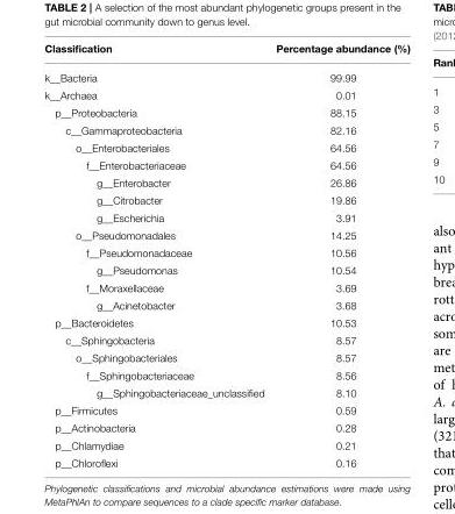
<table><thead><tr><td>Classification</td><td>Percentage abundance (%)</td></tr></thead><tbody><tr><td>k__Bacteria</td><td>99.99</td></tr><tr><td>k__Archaea</td><td>0.01</td></tr><tr><td>p__Proteobacteria</td><td>88.15</td></tr><tr><td>c__Gammaproteobacteria</td><td>82.16</td></tr><tr><td>o__Enterobacteriales</td><td>64.56</td></tr><tr><td>f__Enterobacteriaceae</td><td>64.56</td></tr><tr><td>g__Enterobacter</td><td>26.86</td></tr><tr><td>g__Citrobacter</td><td>19.86</td></tr><tr><td>g__Escherichia</td><td>3.91</td></tr><tr><td>o__Pseudomonadales</td><td>14.25</td></tr><tr><td>f__Pseudomonadaceae</td><td>10.56</td></tr><tr><td>g__Pseudomonas</td><td>10.54</td></tr><tr><td>f__Moraxellaceae</td><td>3.69</td></tr><tr><td>g__Acinetobacter</td><td>3.68</td></tr><tr><td>p__Bacteroidetes</td><td>10.53</td></tr><tr><td>c__Sphingobacteria</td><td>8.57</td></tr><tr><td>o__Sphingobacteriales</td><td>8.57</td></tr><tr><td>f__Sphingobacteriaceae</td><td>8.56</td></tr><tr><td>g__Sphingobacteriaceae_unclassified</td><td>8.10</td></tr><tr><td>p__Firmicutes</td><td>0.59</td></tr><tr><td>p__Actinobacteria</td><td>0.28</td></tr><tr><td>p__Chlamydiae</td><td>0.21</td></tr><tr><td>p__Chloroflexi</td><td>0.16</td></tr></tbody></table>